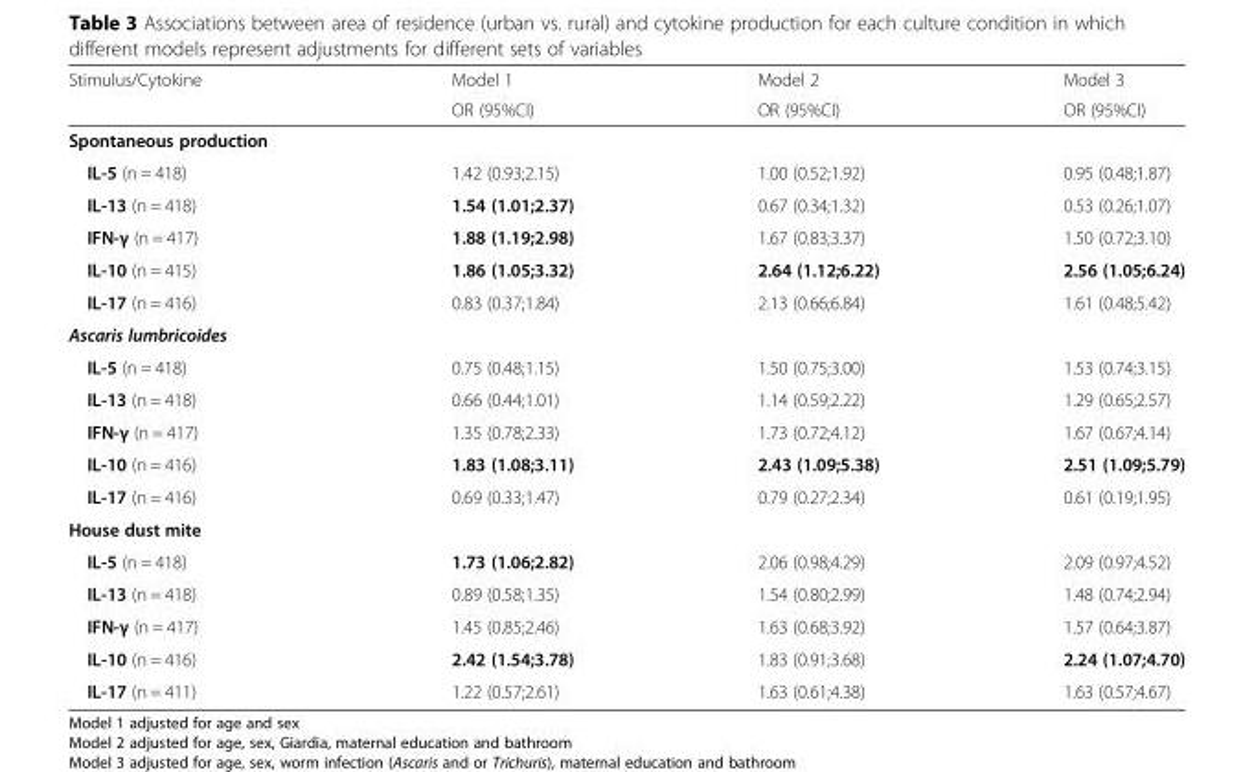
<table><thead><tr><td rowspan="2">Stimulus/Cytokine</td><td rowspan="2">Model 1 OR (95%CI)</td><td rowspan="2">Model 2 OR (95%CI)</td><td rowspan="2">Model 3 OR (95%CI)</td></tr><tr></tr></thead><tbody><tr><td colspan="4">Spontaneous production</td></tr><tr><td>IL-5 (n = 418)</td><td>1.42 (0.93;2.15)</td><td>1.00 (0.52;1.92)</td><td>0.95 (0.48;1.87)</td></tr><tr><td>IL-13 (n = 418)</td><td>1.54 (1.01;2.37)</td><td>0.67 (0.34;1.32)</td><td>0.53 (0.26;1.07)</td></tr><tr><td>IFN-γ (n = 417)</td><td>1.88 (1.19;2.98)</td><td>1.67 (0.83;3.37)</td><td>1.50 (0.72;3.10)</td></tr><tr><td>IL-10 (n = 415)</td><td>1.86 (1.05;3.32)</td><td>2.64 (1.12;6.22)</td><td>2.56 (1.05;6.24)</td></tr><tr><td>IL-17 (n = 416)</td><td>0.83 (0.37;1.84)</td><td>2.13 (0.66;6.84)</td><td>1.61 (0.48;5.42)</td></tr><tr><td colspan="4">Ascaris lumbricoides</td></tr><tr><td>IL-5 (n = 418)</td><td>0.75 (0.48;1.15)</td><td>1.50 (0.75;3.00)</td><td>1.53 (0.74;3.15)</td></tr><tr><td>IL-13 (n = 418)</td><td>0.66 (0.44;1.01)</td><td>1.14 (0.59;2.22)</td><td>1.29 (0.65;2.57)</td></tr><tr><td>IFN-γ (n = 417)</td><td>1.35 (0.78;2.33)</td><td>1.73 (0.72;4.12)</td><td>1.67 (0.67;4.14)</td></tr><tr><td>IL-10 (n = 416)</td><td>1.83 (1.08;3.11)</td><td>2.43 (1.09;5.38)</td><td>2.51 (1.09;5.79)</td></tr><tr><td>IL-17 (n = 416)</td><td>0.69 (0.33;1.47)</td><td>0.79 (0.27;2.34)</td><td>0.61 (0.19;1.95)</td></tr><tr><td colspan="4">House dust mite</td></tr><tr><td>IL-5 (n = 418)</td><td>1.73 (1.06;2.82)</td><td>2.06 (0.98;4.29)</td><td>2.09 (0.97;4.52)</td></tr><tr><td>IL-13 (n = 418)</td><td>0.89 (0.58;1.35)</td><td>1.54 (0.80;2.99)</td><td>1.48 (0.74;2.94)</td></tr><tr><td>IFN-γ (n = 417)</td><td>1.45 (0.85;2.46)</td><td>1.63 (0.68;3.92)</td><td>1.57 (0.64;3.87)</td></tr><tr><td>IL-10 (n = 416)</td><td>2.42 (1.54;3.78)</td><td>1.83 (0.91;3.68)</td><td>2.24 (1.07;4.70)</td></tr><tr><td>IL-17 (n = 411)</td><td>1.22 (0.57;2.61)</td><td>1.63 (0.61;4.38)</td><td>1.63 (0.57;4.67)</td></tr></tbody></table>